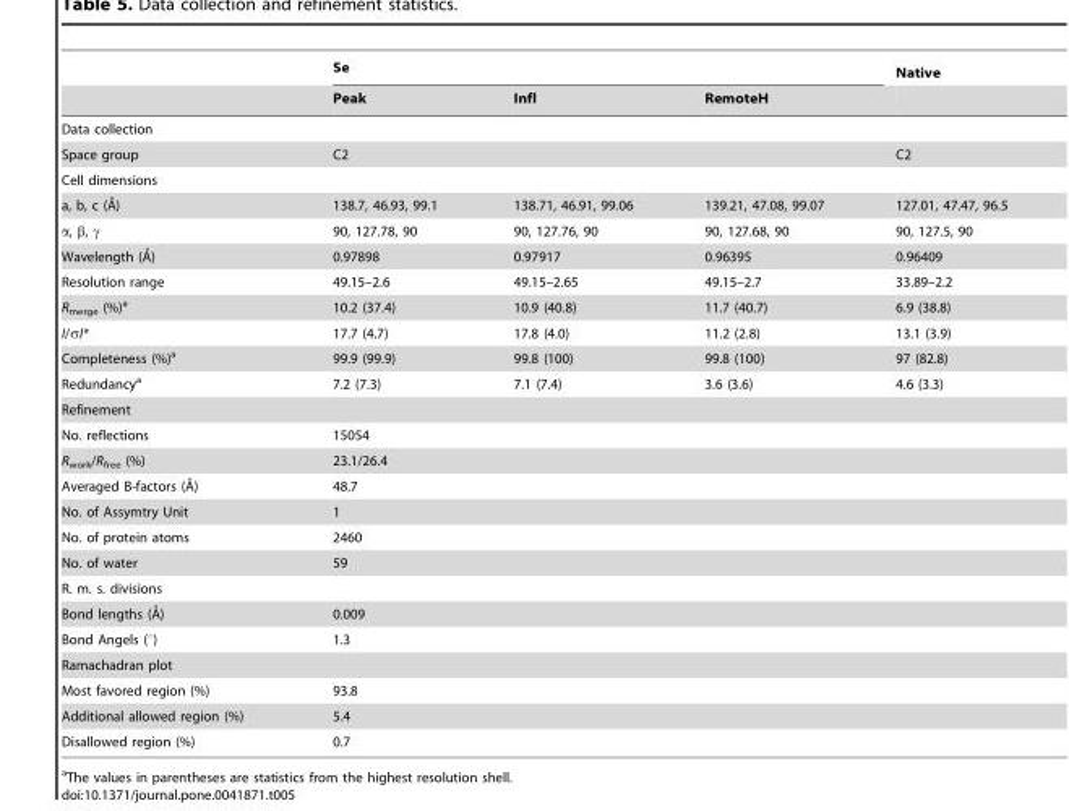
<table><thead><tr><td rowspan="2"></td><td colspan="3">Se</td><td rowspan="2">Native</td></tr><tr><td>Peak</td><td>Infl</td><td>RemoteH</td></tr></thead><tbody><tr><td colspan="5">Data collection</td></tr><tr><td>Space group</td><td colspan="3">C2</td><td>C2</td></tr><tr><td colspan="5">Cell dimensions</td></tr><tr><td>a, b, c (A˚)</td><td>138.7, 46.93, 99.1</td><td>138.71, 46.91, 99.06</td><td>139.21, 47.08, 99.07</td><td>127.01, 47.47, 96.5</td></tr><tr><td>α, β, γ</td><td>90, 127.78, 90</td><td>90, 127.76, 90</td><td>90, 127.68, 90</td><td>90, 127.5, 90</td></tr><tr><td>Wavelength (A˚)</td><td>0.97898</td><td>0.97917</td><td>0.96395</td><td>0.96409</td></tr><tr><td>Resolution range</td><td>49.15–2.6</td><td>49.15–2.65</td><td>49.15–2.7</td><td>33.89–2.2</td></tr><tr><td>R<sub>merge</sub> (%)<sup>a</sup></td><td>10.2 (37.4)</td><td>10.9 (40.8)</td><td>11.7 (40.7)</td><td>6.9 (38.8)</td></tr><tr><td>I/σI*</td><td>17.7 (4.7)</td><td>17.8 (4.0)</td><td>11.2 (2.8)</td><td>13.1 (3.9)</td></tr><tr><td>Completeness (%)<sup>a</sup></td><td>99.9 (99.9)</td><td>99.8 (100)</td><td>99.8 (100)</td><td>97 (82.8)</td></tr><tr><td>Redundancy<sup>a</sup></td><td>7.2 (7.3)</td><td>7.1 (7.4)</td><td>3.6 (3.6)</td><td>4.6 (3.3)</td></tr><tr><td colspan="5">Refinement</td></tr><tr><td>No. reflections</td><td colspan="4">15054</td></tr><tr><td>R<sub>work</sub>/R<sub>free</sub> (%)</td><td colspan="4">23.1/26.4</td></tr><tr><td>Averaged B-factors (A˚)</td><td colspan="4">48.7</td></tr><tr><td>No. of Assymtry Unit</td><td colspan="4">1</td></tr><tr><td>No. of protein atoms</td><td colspan="4">2460</td></tr><tr><td>No. of water</td><td colspan="4">59</td></tr><tr><td colspan="5">R. m. s. divisions</td></tr><tr><td>Bond lengths (A˚)</td><td colspan="4">0.009</td></tr><tr><td>Bond Angels (°)</td><td colspan="4">1.3</td></tr><tr><td colspan="5">Ramachadran plot</td></tr><tr><td>Most favored region (%)</td><td colspan="4">93.8</td></tr><tr><td>Additional allowed region (%)</td><td colspan="4">5.4</td></tr><tr><td>Disallowed region (%)</td><td colspan="4">0.7</td></tr></tbody></table>